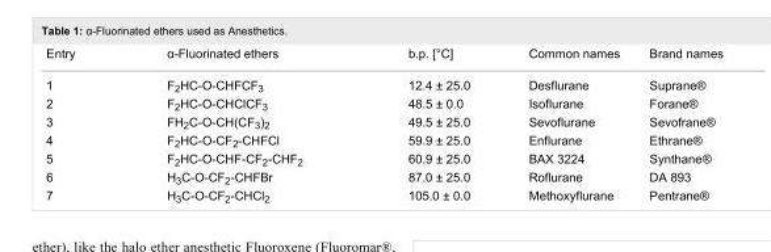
<table><tbody><tr><td>Entry</td><td>α-Fluorinated ethers</td><td>b.p. [°C]</td><td>Common names</td><td>Brand names</td></tr><tr><td>1</td><td>F<sub>2</sub>HC-O-CHFCF<sub>3</sub></td><td>12.4 ± 25.0</td><td>Desflurane</td><td>Suprane®</td></tr><tr><td>2</td><td>F<sub>2</sub>HC-O-CHClCF<sub>3</sub></td><td>48.5 ± 0.0</td><td>Isoflurane</td><td>Forane®</td></tr><tr><td>3</td><td>FH<sub>2</sub>C-O-CH(CF<sub>3</sub>)<sub>2</sub></td><td>49.5 ± 25.0</td><td>Sevoflurane</td><td>Sevofrane®</td></tr><tr><td>4</td><td>F<sub>2</sub>HC-O-CF<sub>2</sub>-CHFCl</td><td>59.9 ± 25.0</td><td>Enflurane</td><td>Ethrane®</td></tr><tr><td>5</td><td>F<sub>2</sub>HC-O-CHF-CF<sub>2</sub>-CHF<sub>2</sub></td><td>60.9 ± 25.0</td><td>BAX 3224</td><td>Synthane®</td></tr><tr><td>6</td><td>H<sub>3</sub>C-O-CF<sub>2</sub>-CHFBr</td><td>87.0 ± 25.0</td><td>Roflurane</td><td>DA 893</td></tr><tr><td>7</td><td>H<sub>3</sub>C-O-CF<sub>2</sub>-CHCl<sub>2</sub></td><td>105.0 ± 0.0</td><td>Methoxyflurane</td><td>Pentrane®</td></tr></tbody></table>